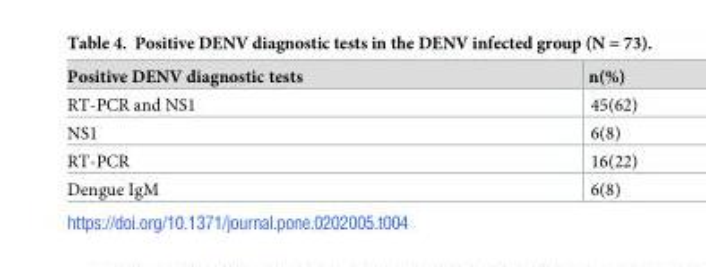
<table><thead><tr><td>Positive DENV diagnostic tests</td><td>n(%)</td></tr></thead><tbody><tr><td>RT-PCR and NS1</td><td>45(62)</td></tr><tr><td>NS1</td><td>6(8)</td></tr><tr><td>RT-PCR</td><td>16(22)</td></tr><tr><td>Dengue IgM</td><td>6(8)</td></tr></tbody></table>